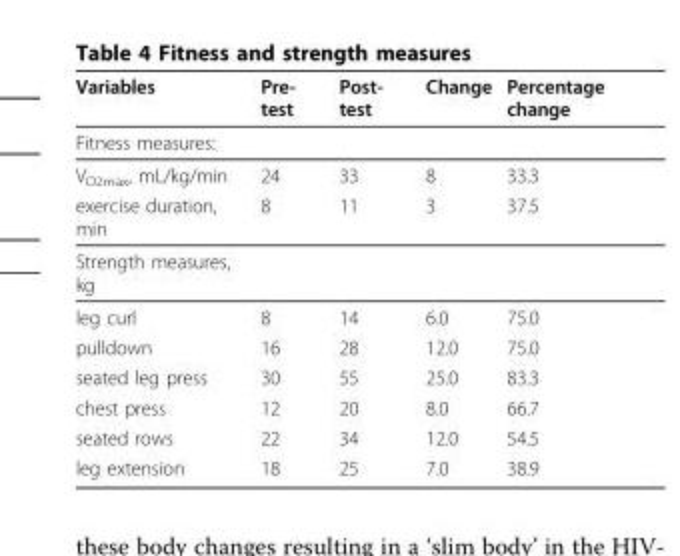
<table><thead><tr><td>Variables</td><td>Pre- test</td><td>Post- test</td><td>Change</td><td>Percentage change</td></tr></thead><tbody><tr><td colspan="5">Fitness measures:</td></tr><tr><td>V<sub>O2max</sub>, mL/kg/min</td><td>24</td><td>33</td><td>8</td><td>33.3</td></tr><tr><td>exercise duration, min</td><td>8</td><td>11</td><td>3</td><td>37.5</td></tr><tr><td colspan="5">Strength measures, kg</td></tr><tr><td>leg curl</td><td>8</td><td>14</td><td>6.0</td><td>75.0</td></tr><tr><td>pulldown</td><td>16</td><td>28</td><td>12.0</td><td>75.0</td></tr><tr><td>seated leg press</td><td>30</td><td>55</td><td>25.0</td><td>83.3</td></tr><tr><td>chest press</td><td>12</td><td>20</td><td>8.0</td><td>66.7</td></tr><tr><td>seated rows</td><td>22</td><td>34</td><td>12.0</td><td>54.5</td></tr><tr><td>leg extension</td><td>18</td><td>25</td><td>7.0</td><td>38.9</td></tr></tbody></table>